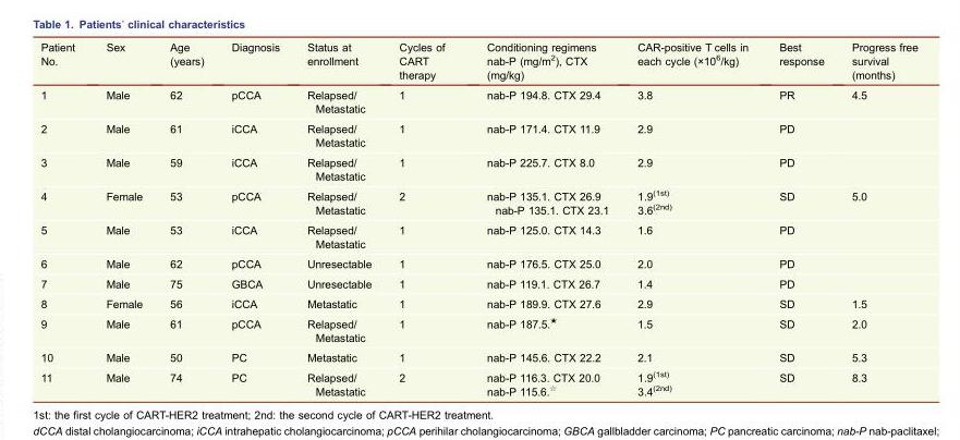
<table><thead><tr><td>Patient No.</td><td>Sex</td><td>Age (years)</td><td>Diagnosis</td><td>Status at enrollment</td><td>Cycles of CART therapy</td><td>Conditioning regimens nab-P (mg/m<sup>2</sup>), CTX (mg/kg)</td><td>CAR-positive T cells in each cycle (×10<sup>6</sup>/kg)</td><td>Best response</td><td>Progress free survival (months)</td></tr></thead><tbody><tr><td>1</td><td>Male</td><td>62</td><td>pCCA</td><td>Relapsed/ Metastatic</td><td>1</td><td>nab-P 194.8. CTX 29.4</td><td>3.8</td><td>PR</td><td>4.5</td></tr><tr><td>2</td><td>Male</td><td>61</td><td>iCCA</td><td>Relapsed/ Metastatic</td><td>1</td><td>nab-P 171.4. CTX 11.9</td><td>2.9</td><td>PD</td><td></td></tr><tr><td>3</td><td>Male</td><td>59</td><td>iCCA</td><td>Relapsed/ Metastatic</td><td>1</td><td>nab-P 225.7. CTX 8.0</td><td>2.9</td><td>PD</td><td></td></tr><tr><td>4</td><td>Female</td><td>53</td><td>pCCA</td><td>Relapsed/ Metastatic</td><td>2</td><td>nab-P 135.1. CTX 26.9 nab-P 135.1. CTX 23.1</td><td>1.9<sup>(1st)</sup> 3.6<sup>(2nd)</sup></td><td>SD</td><td>5.0</td></tr><tr><td>5</td><td>Male</td><td>53</td><td>iCCA</td><td>Relapsed/ Metastatic</td><td>1</td><td>nab-P 125.0. CTX 14.3</td><td>1.6</td><td>PD</td><td></td></tr><tr><td>6</td><td>Male</td><td>62</td><td>pCCA</td><td>Unresectable</td><td>1</td><td>nab-P 176.5. CTX 25.0</td><td>2.0</td><td>PD</td><td></td></tr><tr><td>7</td><td>Male</td><td>75</td><td>GBCA</td><td>Unresectable</td><td>1</td><td>nab-P 119.1. CTX 26.7</td><td>1.4</td><td>PD</td><td></td></tr><tr><td>8</td><td>Female</td><td>56</td><td>iCCA</td><td>Metastatic</td><td>1</td><td>nab-P 189.9. CTX 27.6</td><td>2.9</td><td>SD</td><td>1.5</td></tr><tr><td>9</td><td>Male</td><td>61</td><td>pCCA</td><td>Relapsed/ Metastatic</td><td>1</td><td>nab-P 187.5.<sup>★</sup></td><td>1.5</td><td>SD</td><td>2.0</td></tr><tr><td>10</td><td>Male</td><td>50</td><td>PC</td><td>Metastatic</td><td>1</td><td>nab-P 145.6. CTX 22.2</td><td>2.1</td><td>SD</td><td>5.3</td></tr><tr><td>11</td><td>Male</td><td>74</td><td>PC</td><td>Relapsed/ Metastatic</td><td>2</td><td>nab-P 116.3. CTX 20.0 nab-P 115.6.<sup>☆</sup></td><td>1.9<sup>(1st)</sup> 3.4<sup>(2nd)</sup></td><td>SD</td><td>8.3</td></tr></tbody></table>